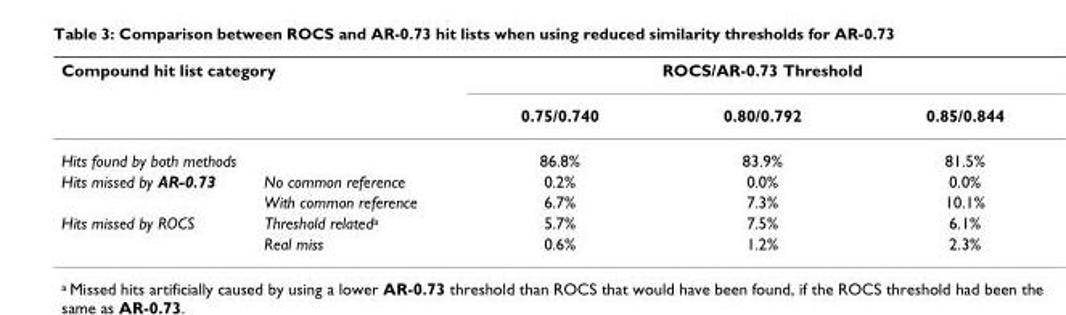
<table><thead><tr><td colspan="2">Compound hit list category</td><td colspan="3">ROCS/AR-0.73 Threshold</td></tr><tr><td></td><td></td><td>0.75/0.740</td><td>0.80/0.792</td><td>0.85/0.844</td></tr></thead><tbody><tr><td colspan="2">Hits found by both methods</td><td>86.8%</td><td>83.9%</td><td>81.5%</td></tr><tr><td rowspan="2">Hits missed by AR-0.73</td><td>No common reference</td><td>0.2%</td><td>0.0%</td><td>0.0%</td></tr><tr><td>With common reference</td><td>6.7%</td><td>7.3%</td><td>10.1%</td></tr><tr><td rowspan="2">Hits missed by ROCS</td><td>Threshold related<sup>a</sup></td><td>5.7%</td><td>7.5%</td><td>6.1%</td></tr><tr><td>Real miss</td><td>0.6%</td><td>1.2%</td><td>2.3%</td></tr></tbody></table>